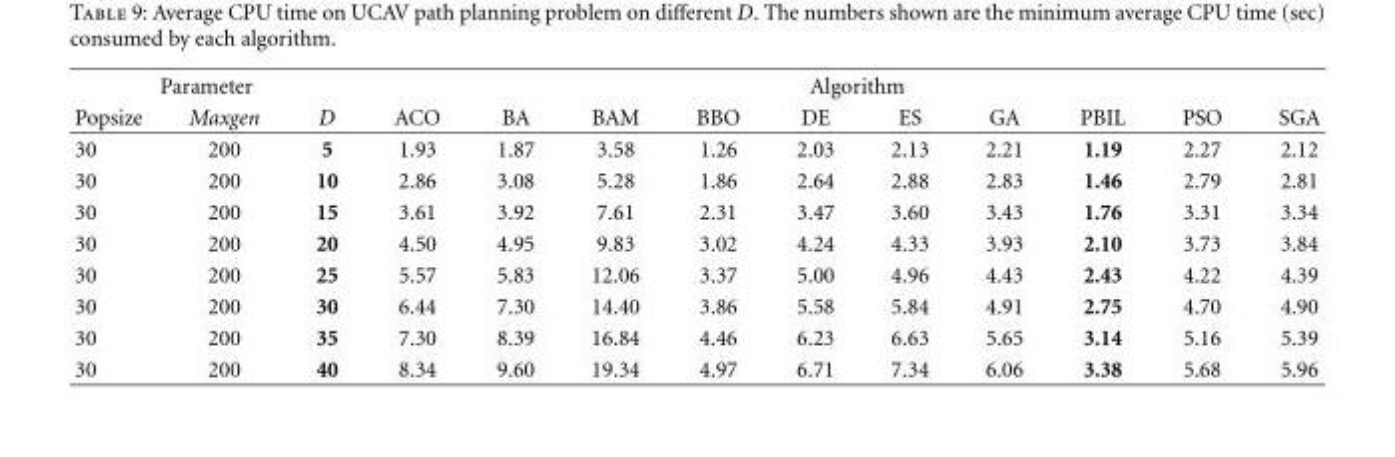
<table><thead><tr><td colspan="3">Parameter</td><td colspan="10">Algorithm</td></tr><tr><td>Popsize</td><td>Maxgen</td><td>D</td><td>ACO</td><td>BA</td><td>BAM</td><td>BBO</td><td>DE</td><td>ES</td><td>GA</td><td>PBIL</td><td>PSO</td><td>SGA</td></tr></thead><tbody><tr><td>30</td><td>200</td><td>5</td><td>1.93</td><td>1.87</td><td>3.58</td><td>1.26</td><td>2.03</td><td>2.13</td><td>2.21</td><td>1.19</td><td>2.27</td><td>2.12</td></tr><tr><td>30</td><td>200</td><td>10</td><td>2.86</td><td>3.08</td><td>5.28</td><td>1.86</td><td>2.64</td><td>2.88</td><td>2.83</td><td>1.46</td><td>2.79</td><td>2.81</td></tr><tr><td>30</td><td>200</td><td>15</td><td>3.61</td><td>3.92</td><td>7.61</td><td>2.31</td><td>3.47</td><td>3.60</td><td>3.43</td><td>1.76</td><td>3.31</td><td>3.34</td></tr><tr><td>30</td><td>200</td><td>20</td><td>4.50</td><td>4.95</td><td>9.83</td><td>3.02</td><td>4.24</td><td>4.33</td><td>3.93</td><td>2.10</td><td>3.73</td><td>3.84</td></tr><tr><td>30</td><td>200</td><td>25</td><td>5.57</td><td>5.83</td><td>12.06</td><td>3.37</td><td>5.00</td><td>4.96</td><td>4.43</td><td>2.43</td><td>4.22</td><td>4.39</td></tr><tr><td>30</td><td>200</td><td>30</td><td>6.44</td><td>7.30</td><td>14.40</td><td>3.86</td><td>5.58</td><td>5.84</td><td>4.91</td><td>2.75</td><td>4.70</td><td>4.90</td></tr><tr><td>30</td><td>200</td><td>35</td><td>7.30</td><td>8.39</td><td>16.84</td><td>4.46</td><td>6.23</td><td>6.63</td><td>5.65</td><td>3.14</td><td>5.16</td><td>5.39</td></tr><tr><td>30</td><td>200</td><td>40</td><td>8.34</td><td>9.60</td><td>19.34</td><td>4.97</td><td>6.71</td><td>7.34</td><td>6.06</td><td>3.38</td><td>5.68</td><td>5.96</td></tr></tbody></table>